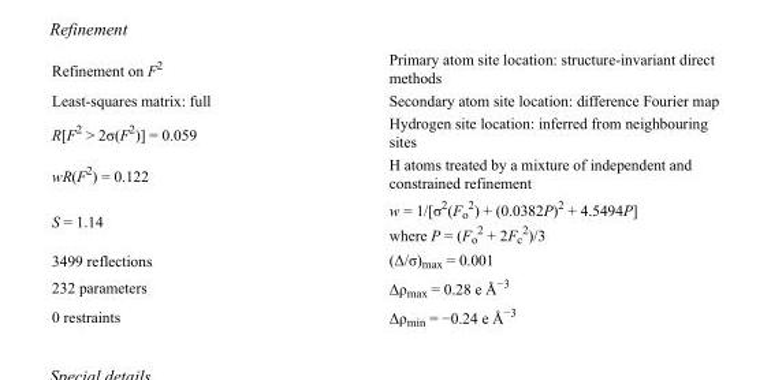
<table><tbody><tr><td>Refinement on F<sup>2</sup></td><td>Primary atom site location: structure-invariant direct methods</td></tr><tr><td>Least-squares matrix: full</td><td>Secondary atom site location: difference Fourier map</td></tr><tr><td>R[F<sup>2</sup> &gt; 2σ(F<sup>2</sup>)] = 0.059</td><td>Hydrogen site location: inferred from neighbouring sites</td></tr><tr><td>wR(F<sup>2</sup>) = 0.122</td><td>H atoms treated by a mixture of independent and constrained refinement</td></tr><tr><td>S = 1.14</td><td>w = 1/[σ<sup>2</sup>(F<sub>o</sub> <sup>2</sup>) + (0.0382P)<sup>2</sup> + 4.5494P] where P = (F<sub>o</sub> <sup>2</sup> + 2F<sub>c</sub> <sup>2</sup>)/3</td></tr><tr><td>3499 reflections</td><td>(Δ/σ)<sub>max</sub> = 0.001</td></tr><tr><td>232 parameters</td><td>Δρ<sub>max</sub> = 0.28 e Å<sup>−3</sup></td></tr><tr><td>0 restraints</td><td>Δρ<sub>min</sub> = −0.24 e Å<sup>−3</sup></td></tr></tbody></table>